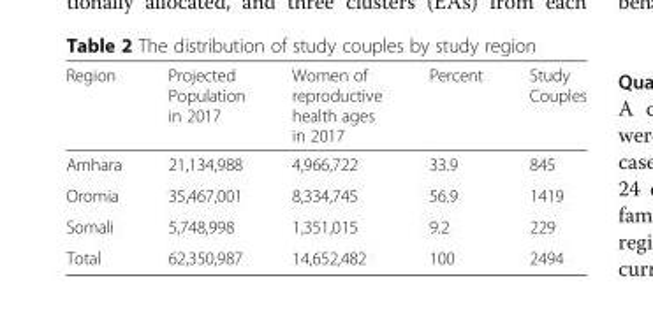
<table><thead><tr><td>Region</td><td>Projected Population in 2017</td><td>Women of reproductive health ages in 2017</td><td>Percent</td><td>Study Couples</td></tr></thead><tbody><tr><td>Amhara</td><td>21,134,988</td><td>4,966,722</td><td>33.9</td><td>845</td></tr><tr><td>Oromia</td><td>35,467,001</td><td>8,334,745</td><td>56.9</td><td>1419</td></tr><tr><td>Somali</td><td>5,748,998</td><td>1,351,015</td><td>9.2</td><td>229</td></tr><tr><td>Total</td><td>62,350,987</td><td>14,652,482</td><td>100</td><td>2494</td></tr></tbody></table>